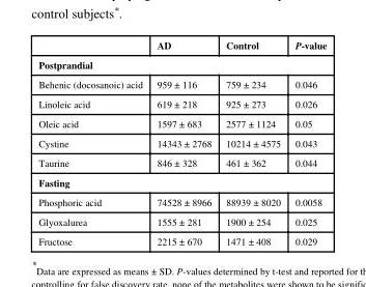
<table><thead><tr><td></td><td>AD</td><td>Control</td><td>P-value</td></tr></thead><tbody><tr><td colspan="4">Postprandial</td></tr><tr><td>Behenic (docosanoic) acid</td><td>959 ± 116</td><td>759 ± 234</td><td>0.046</td></tr><tr><td>Linoleic acid</td><td>619 ± 218</td><td>925 ± 273</td><td>0.026</td></tr><tr><td>Oleic acid</td><td>1597 ± 683</td><td>2577 ± 1124</td><td>0.05</td></tr><tr><td>Cystine</td><td>14343 ± 2768</td><td>10214 ± 4575</td><td>0.043</td></tr><tr><td>Taurine</td><td>846 ± 328</td><td>461 ± 362</td><td>0.044</td></tr><tr><td colspan="4">Fasting</td></tr><tr><td>Phosphoric acid</td><td>74528 ± 8966</td><td>88939 ± 8020</td><td>0.0058</td></tr><tr><td>Glyoxalurea</td><td>1555 ± 281</td><td>1900 ± 254</td><td>0.025</td></tr><tr><td>Fructose</td><td>2215 ± 670</td><td>1471 ± 408</td><td>0.029</td></tr></tbody></table>